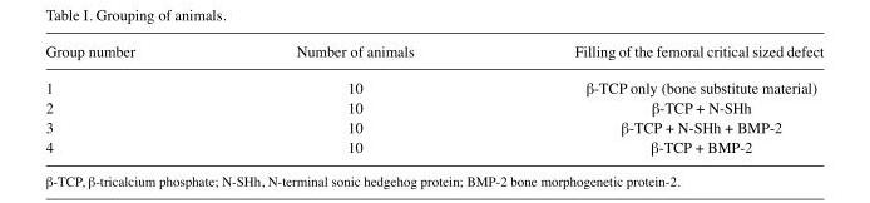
<table><thead><tr><td>Group number</td><td>Number of animals</td><td>Filling of the femoral critical sized defect</td></tr></thead><tbody><tr><td>1</td><td>10</td><td>β-TCP only (bone substitute material)</td></tr><tr><td>2</td><td>10</td><td>β-TCP + N-SHh</td></tr><tr><td>3</td><td>10</td><td>β-TCP + N-SHh + BMP-2</td></tr><tr><td>4</td><td>10</td><td>β-TCP + BMP-2</td></tr></tbody></table>